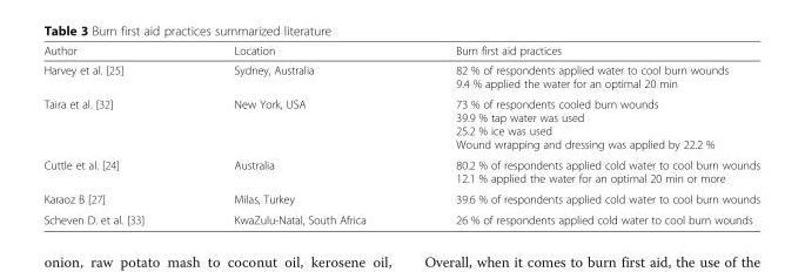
<table><thead><tr><td>Author</td><td>Location</td><td>Burn first aid practices</td></tr></thead><tbody><tr><td>Harvey et al. [25]</td><td>Sydney, Australia</td><td>82 % of respondents applied water to cool burn wounds 9.4 % applied the water for an optimal 20 min</td></tr><tr><td>Taira et al. [32]</td><td>New York, USA</td><td>73 % of respondents cooled burn wounds 39.9 % tap water was used 25.2 % ice was used Wound wrapping and dressing was applied by 22.2 %</td></tr><tr><td>Cuttle et al. [24]</td><td>Australia</td><td>80.2 % of respondents applied cold water to cool burn wounds 12.1 % applied the water for an optimal 20 min or more</td></tr><tr><td>Karaoz B [27]</td><td>Milas, Turkey</td><td>39.6 % of respondents applied cold water to cool burn wounds</td></tr><tr><td>Scheven D. et al. [33]</td><td>KwaZulu-Natal, South Africa</td><td>26 % of respondents applied cold water to cool burn wounds</td></tr></tbody></table>